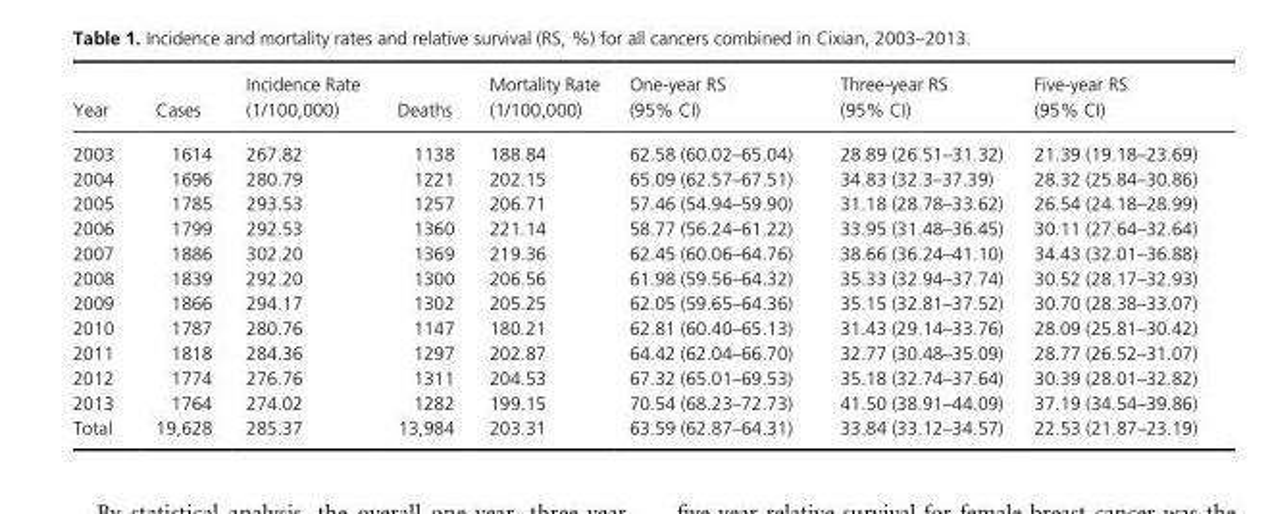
<table><thead><tr><td>Year</td><td>Cases</td><td>Incidence Rate (1/100,000)</td><td>Deaths</td><td>Mortality Rate (1/100,000)</td><td>One- year RS (95% CI)</td><td>Three- year RS (95% CI)</td><td>Five- year RS (95% CI)</td></tr></thead><tbody><tr><td>2003</td><td>1614</td><td>267.82</td><td>1138</td><td>188.84</td><td>62.58 (60.02–65.04)</td><td>28.89 (26.51–31.32)</td><td>21.39 (19.18–23.69)</td></tr><tr><td>2004</td><td>1696</td><td>280.79</td><td>1221</td><td>202.15</td><td>65.09 (62.57–67.51)</td><td>34.83 (32.3–37.39)</td><td>28.32 (25.84–30.86)</td></tr><tr><td>2005</td><td>1785</td><td>293.53</td><td>1257</td><td>206.71</td><td>57.46 (54.94–59.90)</td><td>31.18 (28.78–33.62)</td><td>26.54 (24.18–28.99)</td></tr><tr><td>2006</td><td>1799</td><td>292.53</td><td>1360</td><td>221.14</td><td>58.77 (56.24–61.22)</td><td>33.95 (31.48–36.45)</td><td>30.11 (27.64–32.64)</td></tr><tr><td>2007</td><td>1886</td><td>302.20</td><td>1369</td><td>219.36</td><td>62.45 (60.06–64.76)</td><td>38.66 (36.24–41.10)</td><td>34.43 (32.01–36.88)</td></tr><tr><td>2008</td><td>1839</td><td>292.20</td><td>1300</td><td>206.56</td><td>61.98 (59.56–64.32)</td><td>35.33 (32.94–37.74)</td><td>30.52 (28.17–32.93)</td></tr><tr><td>2009</td><td>1866</td><td>294.17</td><td>1302</td><td>205.25</td><td>62.05 (59.65–64.36)</td><td>35.15 (32.81–37.52)</td><td>30.70 (28.38–33.07)</td></tr><tr><td>2010</td><td>1787</td><td>280.76</td><td>1147</td><td>180.21</td><td>62.81 (60.40–65.13)</td><td>31.43 (29.14–33.76)</td><td>28.09 (25.81–30.42)</td></tr><tr><td>2011</td><td>1818</td><td>284.36</td><td>1297</td><td>202.87</td><td>64.42 (62.04–66.70)</td><td>32.77 (30.48–35.09)</td><td>28.77 (26.52–31.07)</td></tr><tr><td>2012</td><td>1774</td><td>276.76</td><td>1311</td><td>204.53</td><td>67.32 (65.01–69.53)</td><td>35.18 (32.74–37.64)</td><td>30.39 (28.01–32.82)</td></tr><tr><td>2013</td><td>1764</td><td>274.02</td><td>1282</td><td>199.15</td><td>70.54 (68.23–72.73)</td><td>41.50 (38.91–44.09)</td><td>37.19 (34.54–39.86)</td></tr><tr><td>Total</td><td>19,628</td><td>285.37</td><td>13,984</td><td>203.31</td><td>63.59 (62.87–64.31)</td><td>33.84 (33.12–34.57)</td><td>22.53 (21.87–23.19)</td></tr></tbody></table>